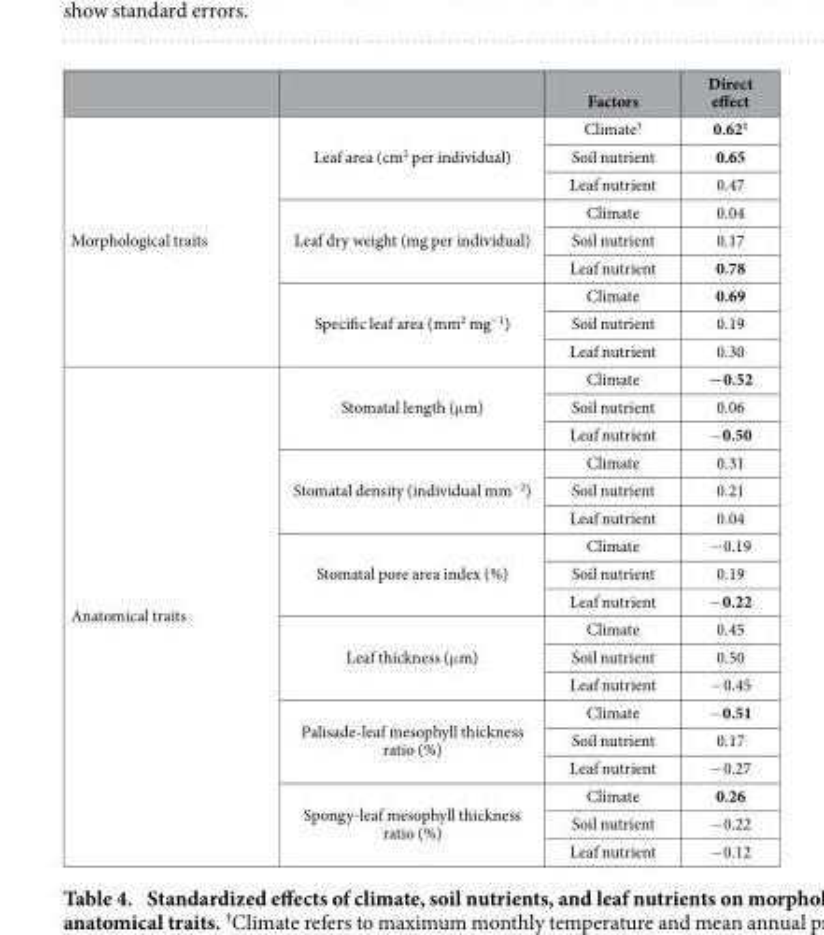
<table><thead><tr><td></td><td></td><td>Factors</td><td>Direct effect</td></tr></thead><tbody><tr><td rowspan="9">Morphological traits</td><td rowspan="3">Leaf area (cm<sup>2</sup> per individual)</td><td>Climate†</td><td>0.62‡</td></tr><tr><td>Soil nutrient</td><td>0.65</td></tr><tr><td>Leaf nutrient</td><td>0.47</td></tr><tr><td rowspan="3">Leaf dry weight (mg per individual)</td><td>Climate</td><td>0.04</td></tr><tr><td>Soil nutrient</td><td>0.17</td></tr><tr><td>Leaf nutrient</td><td>0.78</td></tr><tr><td rowspan="3">Specific leaf area (mm<sup>2</sup> mg<sup>−1</sup>)</td><td>Climate</td><td>0.69</td></tr><tr><td>Soil nutrient</td><td>0.19</td></tr><tr><td>Leaf nutrient</td><td>0.30</td></tr><tr><td rowspan="18">Anatomical traits</td><td rowspan="3">Stomatal length (μ m)</td><td>Climate</td><td>−0.52</td></tr><tr><td>Soil nutrient</td><td>0.06</td></tr><tr><td>Leaf nutrient</td><td>− 0.50</td></tr><tr><td rowspan="3">Stomatal density (individual mm<sup>−2</sup>)</td><td>Climate</td><td>0.31</td></tr><tr><td>Soil nutrient</td><td>0.21</td></tr><tr><td>Leaf nutrient</td><td>0.04</td></tr><tr><td rowspan="3">Stomatal pore area index (%)</td><td>Climate</td><td>− 0.19</td></tr><tr><td>Soil nutrient</td><td>0.19</td></tr><tr><td>Leaf nutrient</td><td>− 0.22</td></tr><tr><td rowspan="3">Leaf thickness (μ m)</td><td>Climate</td><td>0.45</td></tr><tr><td>Soil nutrient</td><td>0.50</td></tr><tr><td>Leaf nutrient</td><td>− 0.45</td></tr><tr><td rowspan="3">Palisade-leaf mesophyll thickness ratio (%)</td><td>Climate</td><td>− 0.51</td></tr><tr><td>Soil nutrient</td><td>0.17</td></tr><tr><td>Leaf nutrient</td><td>− 0.27</td></tr><tr><td rowspan="3">Spongy-leaf mesophyll thickness ratio (%)</td><td>Climate</td><td>0.26</td></tr><tr><td>Soil nutrient</td><td>− 0.22</td></tr><tr><td>Leaf nutrient</td><td>− 0.12</td></tr></tbody></table>